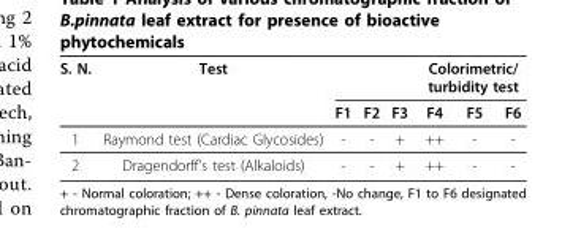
<table><thead><tr><td rowspan="2">S. N.</td><td rowspan="2">Test</td><td rowspan="2">F1</td><td rowspan="2">F2</td><td rowspan="2">F3</td><td colspan="3">Colorimetric/ turbidity test</td></tr><tr><td>F4</td><td>F5</td><td>F6</td></tr></thead><tbody><tr><td>1</td><td>Raymond test (Cardiac Glycosides)</td><td>-</td><td>-</td><td>+</td><td>++</td><td>-</td><td>-</td></tr><tr><td>2</td><td>Dragendorff’s test (Alkaloids)</td><td>-</td><td>-</td><td>+</td><td>++</td><td>-</td><td>-</td></tr></tbody></table>